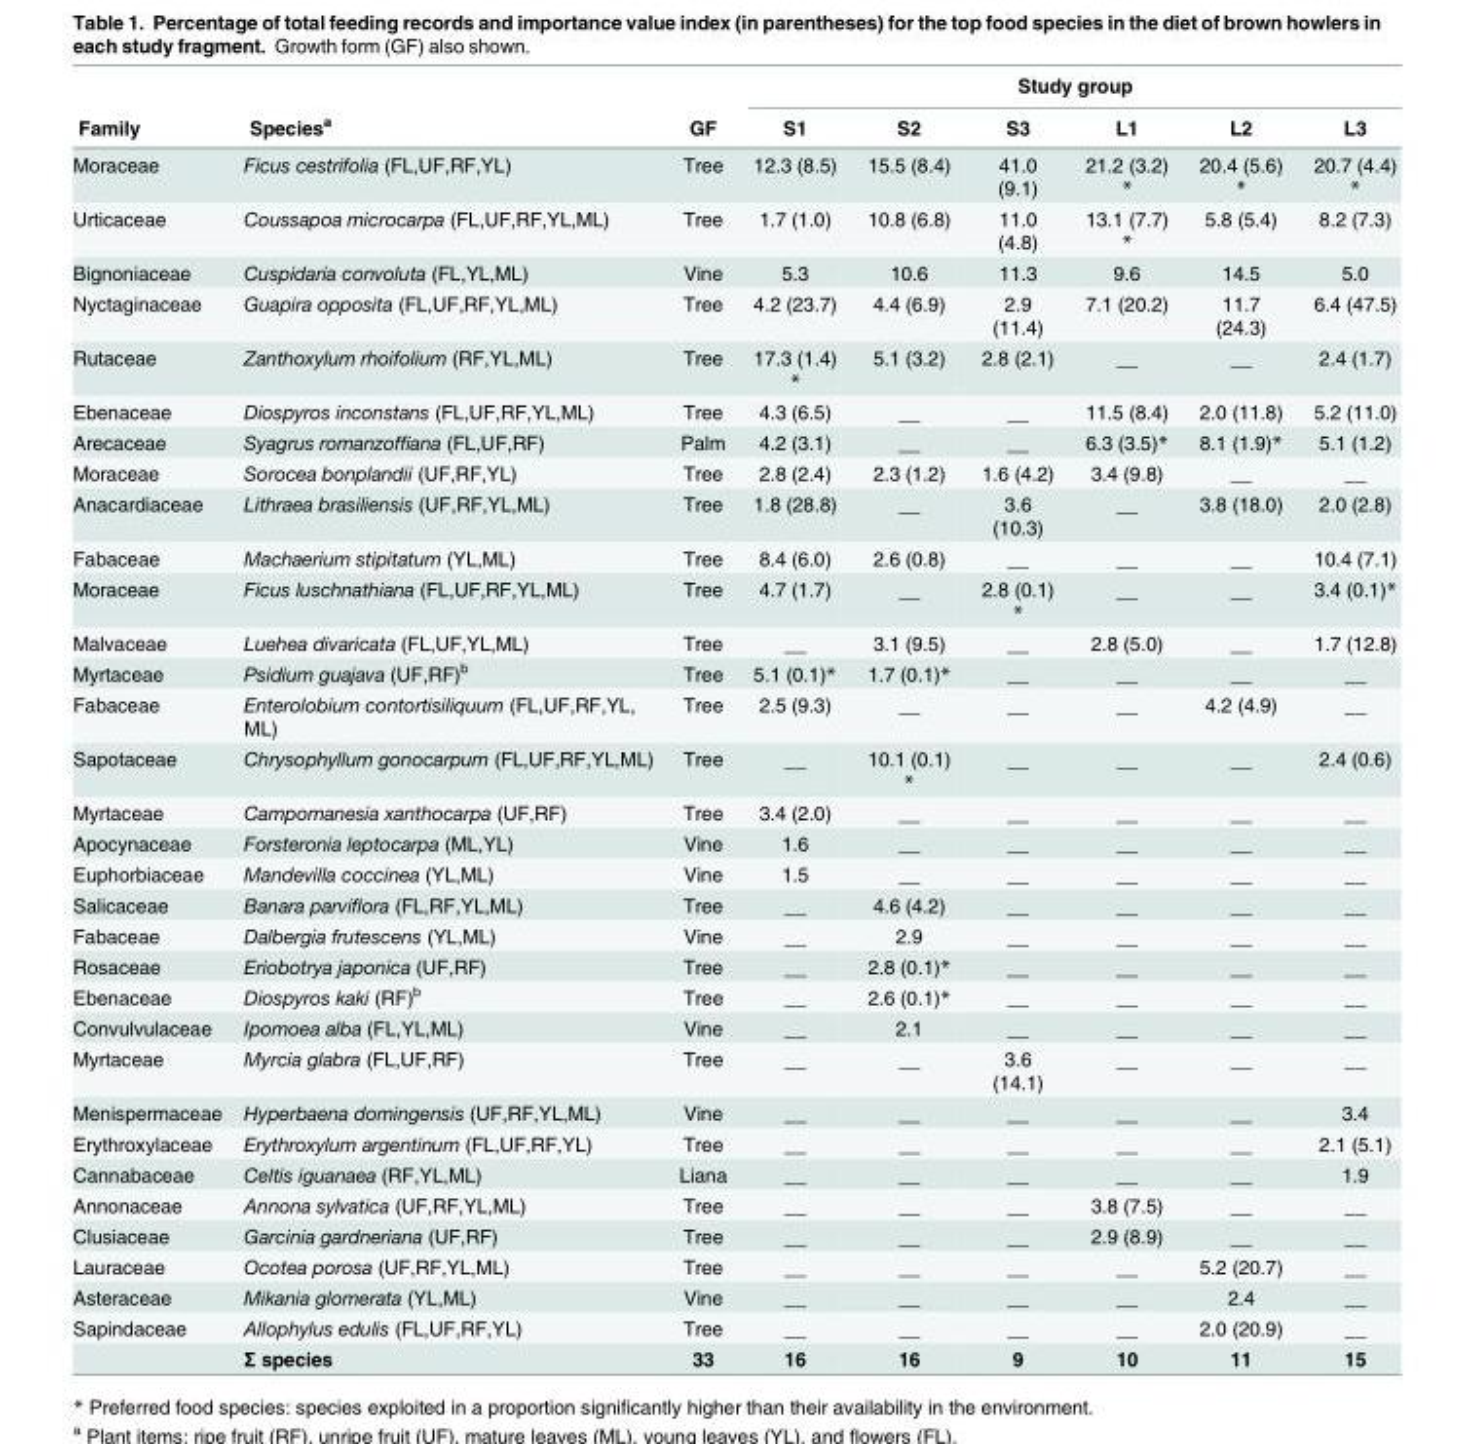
<table><thead><tr><td rowspan="2">Family</td><td rowspan="2">Species<sup>a</sup></td><td rowspan="2">GF</td><td colspan="6">Study group</td></tr><tr><td>S1</td><td>S2</td><td>S3</td><td>L1</td><td>L2</td><td>L3</td></tr></thead><tbody><tr><td>Moraceae</td><td>Ficus cestrifolia (FL,UF,RF,YL)</td><td>Tree</td><td>12.3 (8.5)</td><td>15.5 (8.4)</td><td>41.0 (9.1)</td><td>21.2 (3.2) *</td><td>20.4 (5.6) *</td><td>20.7 (4.4) *</td></tr><tr><td>Urticaceae</td><td>Coussapoa microcarpa (FL,UF,RF,YL,ML)</td><td>Tree</td><td>1.7 (1.0)</td><td>10.8 (6.8)</td><td>11.0 (4.8)</td><td>13.1 (7.7) *</td><td>5.8 (5.4)</td><td>8.2 (7.3)</td></tr><tr><td>Bignoniaceae</td><td>Cuspidaria convoluta (FL,YL,ML)</td><td>Vine</td><td>5.3</td><td>10.6</td><td>11.3</td><td>9.6</td><td>14.5</td><td>5.0</td></tr><tr><td>Nyctaginaceae</td><td>Guapira opposita (FL,UF,RF,YL,ML)</td><td>Tree</td><td>4.2 (23.7)</td><td>4.4 (6.9)</td><td>2.9 (11.4)</td><td>7.1 (20.2)</td><td>11.7 (24.3)</td><td>6.4 (47.5)</td></tr><tr><td>Rutaceae</td><td>Zanthoxylum rhoifolium (RF,YL,ML)</td><td>Tree</td><td>17.3 (1.4) *</td><td>5.1 (3.2)</td><td>2.8 (2.1)</td><td>__</td><td>__</td><td>2.4 (1.7)</td></tr><tr><td>Ebenaceae</td><td>Diospyros inconstans (FL,UF,RF,YL,ML)</td><td>Tree</td><td>4.3 (6.5)</td><td>__</td><td>__</td><td>11.5 (8.4)</td><td>2.0 (11.8)</td><td>5.2 (11.0)</td></tr><tr><td>Arecaceae</td><td>Syagrus romanzoffiana (FL,UF,RF)</td><td>Palm</td><td>4.2 (3.1)</td><td>__</td><td>__</td><td>6.3 (3.5)*</td><td>8.1 (1.9)*</td><td>5.1 (1.2)</td></tr><tr><td>Moraceae</td><td>Sorocea bonplandii (UF,RF,YL)</td><td>Tree</td><td>2.8 (2.4)</td><td>2.3 (1.2)</td><td>1.6 (4.2)</td><td>3.4 (9.8)</td><td>__</td><td>__</td></tr><tr><td>Anacardiaceae</td><td>Lithraea brasiliensis (UF,RF,YL,ML)</td><td>Tree</td><td>1.8 (28.8)</td><td>__</td><td>3.6 (10.3)</td><td>__</td><td>3.8 (18.0)</td><td>2.0 (2.8)</td></tr><tr><td>Fabaceae</td><td>Machaerium stipitatum (YL,ML)</td><td>Tree</td><td>8.4 (6.0)</td><td>2.6 (0.8)</td><td>__</td><td>__</td><td>__</td><td>10.4 (7.1)</td></tr><tr><td>Moraceae</td><td>Ficus luschnathiana (FL,UF,RF,YL,ML)</td><td>Tree</td><td>4.7 (1.7)</td><td>__</td><td>2.8 (0.1) *</td><td>__</td><td>__</td><td>3.4 (0.1)*</td></tr><tr><td>Malvaceae</td><td>Luehea divaricata (FL,UF,YL,ML)</td><td>Tree</td><td>__</td><td>3.1 (9.5)</td><td>__</td><td>2.8 (5.0)</td><td>__</td><td>1.7 (12.8)</td></tr><tr><td>Myrtaceae</td><td>Psidium guajava (UF,RF)<sup>b</sup></td><td>Tree</td><td>5.1 (0.1)*</td><td>1.7 (0.1)*</td><td>__</td><td>__</td><td>__</td><td>__</td></tr><tr><td>Fabaceae</td><td>Enterolobium contortisiliquum (FL,UF,RF,YL, ML)</td><td>Tree</td><td>2.5 (9.3)</td><td>__</td><td>__</td><td>__</td><td>4.2 (4.9)</td><td>__</td></tr><tr><td>Sapotaceae</td><td>Chrysophyllum gonocarpum (FL,UF,RF,YL,ML)</td><td>Tree</td><td>__</td><td>10.1 (0.1) *</td><td>__</td><td>__</td><td>__</td><td>2.4 (0.6)</td></tr><tr><td>Myrtaceae</td><td>Campomanesia xanthocarpa (UF,RF)</td><td>Tree</td><td>3.4 (2.0)</td><td>__</td><td>__</td><td>__</td><td>__</td><td>__</td></tr><tr><td>Apocynaceae</td><td>Forsteronia leptocarpa (ML,YL)</td><td>Vine</td><td>1.6</td><td>__</td><td>__</td><td>__</td><td>__</td><td>__</td></tr><tr><td>Euphorbiaceae</td><td>Mandevilla coccinea (YL,ML)</td><td>Vine</td><td>1.5</td><td>__</td><td>__</td><td>__</td><td>__</td><td>__</td></tr><tr><td>Salicaceae</td><td>Banara parviflora (FL,RF,YL,ML)</td><td>Tree</td><td>__</td><td>4.6 (4.2)</td><td>__</td><td>__</td><td>__</td><td>__</td></tr><tr><td>Fabaceae</td><td>Dalbergia frutescens (YL,ML)</td><td>Vine</td><td>__</td><td>2.9</td><td>__</td><td>__</td><td>__</td><td>__</td></tr><tr><td>Rosaceae</td><td>Eriobotrya japonica (UF,RF)</td><td>Tree</td><td>__</td><td>2.8 (0.1)*</td><td>__</td><td>__</td><td>__</td><td>__</td></tr><tr><td>Ebenaceae</td><td>Diospyros kaki (RF)<sup>b</sup></td><td>Tree</td><td>__</td><td>2.6 (0.1)*</td><td>__</td><td>__</td><td>__</td><td>__</td></tr><tr><td>Convulvulaceae</td><td>Ipomoea alba (FL,YL,ML)</td><td>Vine</td><td>__</td><td>2.1</td><td>__</td><td>__</td><td>__</td><td>__</td></tr><tr><td>Myrtaceae</td><td>Myrcia glabra (FL,UF,RF)</td><td>Tree</td><td>__</td><td>__</td><td>3.6 (14.1)</td><td>__</td><td>__</td><td>__</td></tr><tr><td>Menispermaceae</td><td>Hyperbaena domingensis (UF,RF,YL,ML)</td><td>Vine</td><td>__</td><td>__</td><td>__</td><td>__</td><td>__</td><td>3.4</td></tr><tr><td>Erythroxylaceae</td><td>Erythroxylum argentinum (FL,UF,RF,YL)</td><td>Tree</td><td>__</td><td>__</td><td>__</td><td>__</td><td>__</td><td>2.1 (5.1)</td></tr><tr><td>Cannabaceae</td><td>Celtis iguanaea (RF,YL,ML)</td><td>Liana</td><td>__</td><td>__</td><td>__</td><td>__</td><td>__</td><td>1.9</td></tr><tr><td>Annonaceae</td><td>Annona sylvatica (UF,RF,YL,ML)</td><td>Tree</td><td>__</td><td>__</td><td>__</td><td>3.8 (7.5)</td><td>__</td><td>__</td></tr><tr><td>Clusiaceae</td><td>Garcinia gardneriana (UF,RF)</td><td>Tree</td><td>__</td><td>__</td><td>__</td><td>2.9 (8.9)</td><td>__</td><td>__</td></tr><tr><td>Lauraceae</td><td>Ocotea porosa (UF,RF,YL,ML)</td><td>Tree</td><td>__</td><td>__</td><td>__</td><td>__</td><td>5.2 (20.7)</td><td>__</td></tr><tr><td>Asteraceae</td><td>Mikania glomerata (YL,ML)</td><td>Vine</td><td>__</td><td>__</td><td>__</td><td>__</td><td>2.4</td><td>__</td></tr><tr><td rowspan="2">Sapindaceae</td><td>Allophylus edulis (FL,UF,RF,YL)</td><td>Tree</td><td>__</td><td>__</td><td>__</td><td>__</td><td>2.0 (20.9)</td><td>__</td></tr><tr><td>Σ species</td><td>33</td><td>16</td><td>16</td><td>9</td><td>10</td><td>11</td><td>15</td></tr></tbody></table>